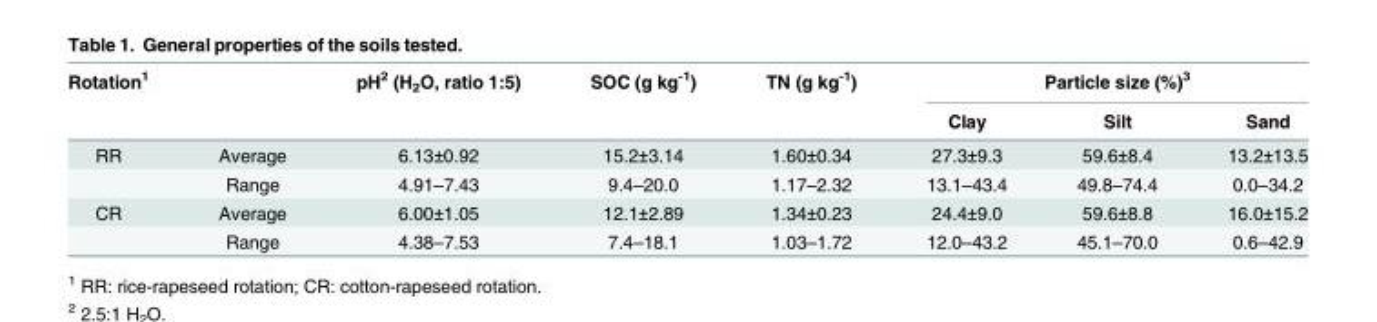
<table><thead><tr><td rowspan="2">Rotation<sup>1</sup></td><td rowspan="2"></td><td rowspan="2">pH<sup>2</sup> (H<sub>2</sub>O, ratio 1:5)</td><td rowspan="2">SOC (g kg<sup>-1</sup>)</td><td rowspan="2">TN (g kg<sup>-1</sup>)</td><td colspan="3">Particle size (%)<sup>3</sup></td></tr><tr><td>Clay</td><td>Silt</td><td>Sand</td></tr></thead><tbody><tr><td rowspan="2">RR</td><td>Average</td><td>6.13±0.92</td><td>15.2±3.14</td><td>1.60±0.34</td><td>27.3±9.3</td><td>59.6±8.4</td><td>13.2±13.5</td></tr><tr><td>Range</td><td>4.91–7.43</td><td>9.4–20.0</td><td>1.17–2.32</td><td>13.1–43.4</td><td>49.8–74.4</td><td>0.0–34.2</td></tr><tr><td rowspan="2">CR</td><td>Average</td><td>6.00±1.05</td><td>12.1±2.89</td><td>1.34±0.23</td><td>24.4±9.0</td><td>59.6±8.8</td><td>16.0±15.2</td></tr><tr><td>Range</td><td>4.38–7.53</td><td>7.4–18.1</td><td>1.03–1.72</td><td>12.0–43.2</td><td>45.1–70.0</td><td>0.6–42.9</td></tr></tbody></table>